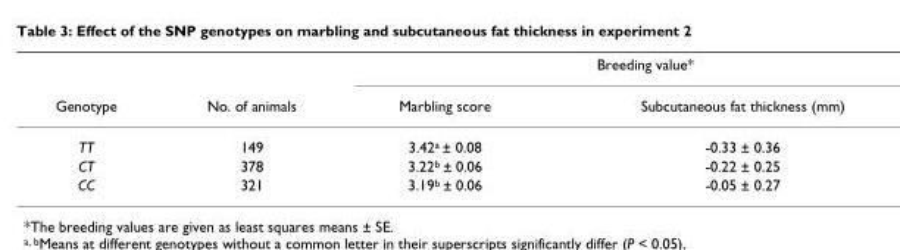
<table><thead><tr><td rowspan="2">Genotype</td><td rowspan="2">No. of animals</td><td colspan="2">Breeding value*</td></tr><tr><td>Marbling score</td><td>Subcutaneous fat thickness (mm)</td></tr></thead><tbody><tr><td>TT</td><td>149</td><td>3.42<sup>a</sup> ± 0.08</td><td>-0.33 ± 0.36</td></tr><tr><td>CT</td><td>378</td><td>3.22<sup>b</sup> ± 0.06</td><td>-0.22 ± 0.25</td></tr><tr><td>CC</td><td>321</td><td>3.19<sup>b</sup> ± 0.06</td><td>-0.05 ± 0.27</td></tr></tbody></table>